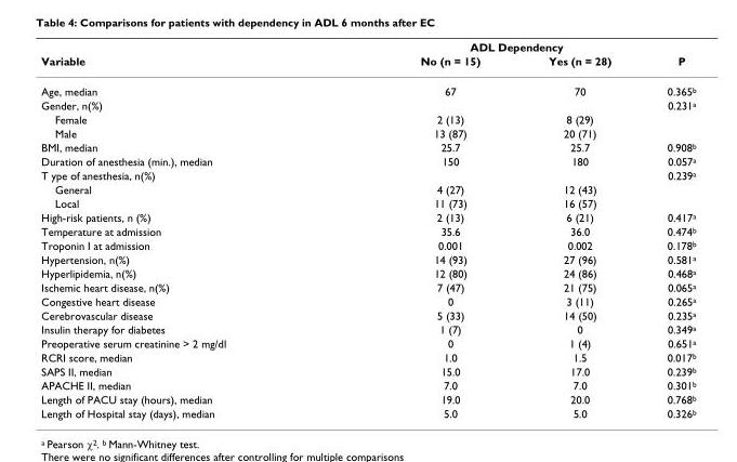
<table><thead><tr><td rowspan="2">Variable</td><td colspan="2">ADL Dependency</td><td rowspan="2">P</td></tr><tr><td>No (n = 15)</td><td>Yes (n = 28)</td></tr></thead><tbody><tr><td>Age, median</td><td>67</td><td>70</td><td>0.365<sup>b</sup></td></tr><tr><td>Gender, n(%)</td><td></td><td></td><td>0.231<sup>a</sup></td></tr><tr><td>Female</td><td>2 (13)</td><td>8 (29)</td><td></td></tr><tr><td>Male</td><td>13 (87)</td><td>20 (71)</td><td></td></tr><tr><td>BMI, median</td><td>25.7</td><td>25.7</td><td>0.908<sup>b</sup></td></tr><tr><td>Duration of anesthesia (min.), median</td><td>150</td><td>180</td><td>0.057<sup>a</sup></td></tr><tr><td>T ype of anesthesia, n(%)</td><td></td><td></td><td>0.239<sup>a</sup></td></tr><tr><td>General</td><td>4 (27)</td><td>12 (43)</td><td></td></tr><tr><td>Local</td><td>11 (73)</td><td>16 (57)</td><td></td></tr><tr><td>High-risk patients, n (%)</td><td>2 (13)</td><td>6 (21)</td><td>0.417<sup>a</sup></td></tr><tr><td>Temperature at admission</td><td>35.6</td><td>36.0</td><td>0.474<sup>b</sup></td></tr><tr><td>Troponin I at admission</td><td>0.001</td><td>0.002</td><td>0.178<sup>b</sup></td></tr><tr><td>Hypertension, n(%)</td><td>14 (93)</td><td>27 (96)</td><td>0.581<sup>a</sup></td></tr><tr><td>Hyperlipidemia, n(%)</td><td>12 (80)</td><td>24 (86)</td><td>0.468<sup>a</sup></td></tr><tr><td>Ischemic heart disease, n(%)</td><td>7 (47)</td><td>21 (75)</td><td>0.065<sup>a</sup></td></tr><tr><td>Congestive heart disease</td><td>0</td><td>3 (11)</td><td>0.265<sup>a</sup></td></tr><tr><td>Cerebrovascular disease</td><td>5 (33)</td><td>14 (50)</td><td>0.235<sup>a</sup></td></tr><tr><td>Insulin therapy for diabetes</td><td>1 (7)</td><td>0</td><td>0.349<sup>a</sup></td></tr><tr><td>Preoperative serum creatinine &gt; 2 mg/dl</td><td>0</td><td>1 (4)</td><td>0.651<sup>a</sup></td></tr><tr><td>RCRI score, median</td><td>1.0</td><td>1.5</td><td>0.017<sup>b</sup></td></tr><tr><td>SAPS II, median</td><td>15.0</td><td>17.0</td><td>0.239<sup>b</sup></td></tr><tr><td>APACHE II, median</td><td>7.0</td><td>7.0</td><td>0.301<sup>b</sup></td></tr><tr><td>Length of PACU stay (hours), median</td><td>19.0</td><td>20.0</td><td>0.768<sup>b</sup></td></tr><tr><td>Length of Hospital stay (days), median</td><td>5.0</td><td>5.0</td><td>0.326<sup>b</sup></td></tr></tbody></table>